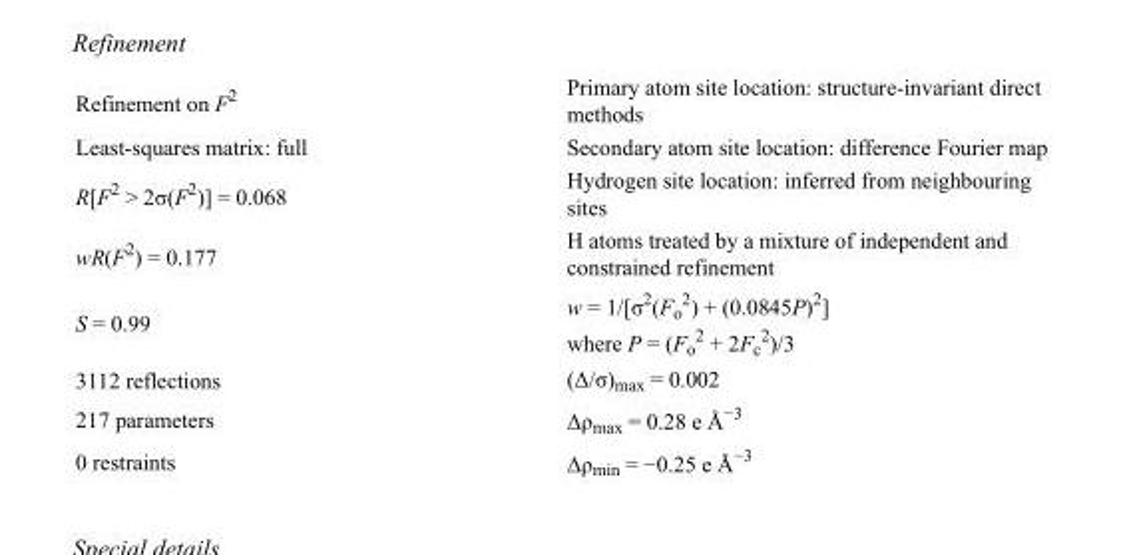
<table><tbody><tr><td>Refinement on F<sup>2</sup></td><td>Primary atom site location: structure-invariant direct methods</td></tr><tr><td>Least-squares matrix: full</td><td>Secondary atom site location: difference Fourier map</td></tr><tr><td>R[F<sup>2</sup> &gt; 2σ(F<sup>2</sup>)] = 0.068</td><td>Hydrogen site location: inferred from neighbouring sites</td></tr><tr><td>wR(F<sup>2</sup>) = 0.177</td><td>H atoms treated by a mixture of independent and constrained refinement</td></tr><tr><td>S = 0.99</td><td>w = 1/[σ<sup>2</sup>(F<sub>o</sub> <sup>2</sup>) + (0.0845P)<sup>2</sup>] where P = (F<sub>o</sub> <sup>2</sup> + 2F<sub>c</sub> <sup>2</sup>)/3</td></tr><tr><td>3112 reflections</td><td>(Δ/σ)<sub>max</sub> = 0.002</td></tr><tr><td>217 parameters</td><td>Δρ<sub>max</sub> = 0.28 e Å<sup>−3</sup></td></tr><tr><td>0 restraints</td><td>Δρ<sub>min</sub> = −0.25 e Å<sup>−3</sup></td></tr></tbody></table>